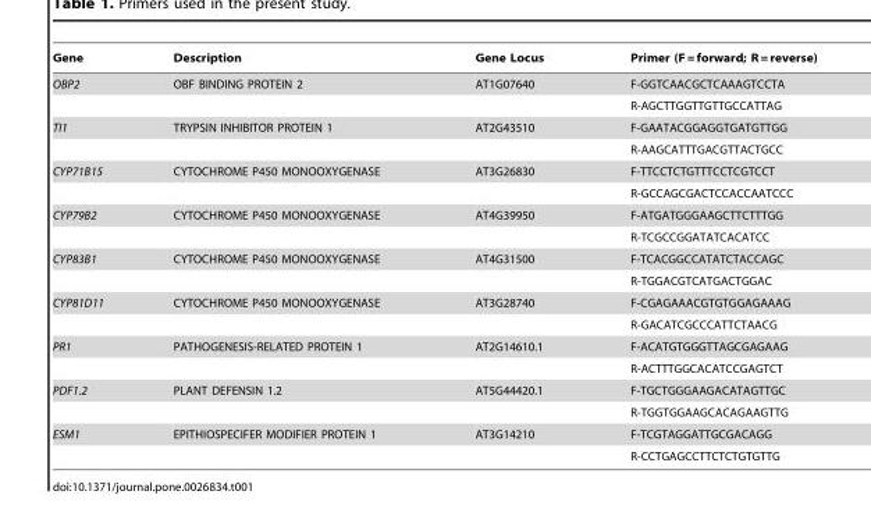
<table><thead><tr><td>Gene</td><td>Description</td><td>Gene Locus</td><td>Primer (F = forward; R = reverse)</td></tr></thead><tbody><tr><td rowspan="2">OBP2</td><td>OBF BINDING PROTEIN 2</td><td>AT1G07640</td><td>F-GGTCAACGCTCAAAGTCCTA</td></tr><tr><td></td><td></td><td>R-AGCTTGGTTGTTGCCATTAG</td></tr><tr><td rowspan="2">TI1</td><td>TRYPSIN INHIBITOR PROTEIN 1</td><td>AT2G43510</td><td>F-GAATACGGAGGTGATGTTGG</td></tr><tr><td></td><td></td><td>R-AAGCATTTGACGTTACTGCC</td></tr><tr><td rowspan="2">CYP71B15</td><td>CYTOCHROME P450 MONOOXYGENASE</td><td>AT3G26830</td><td>F-TTCCTCTGTTTCCTCGTCCT</td></tr><tr><td></td><td></td><td>R-GCCAGCGACTCCACCAATCCC</td></tr><tr><td rowspan="2">CYP79B2</td><td>CYTOCHROME P450 MONOOXYGENASE</td><td>AT4G39950</td><td>F-ATGATGGGAAGCTTCTTTGG</td></tr><tr><td></td><td></td><td>R-TCGCCGGATATCACATCC</td></tr><tr><td rowspan="2">CYP83B1</td><td>CYTOCHROME P450 MONOOXYGENASE</td><td>AT4G31500</td><td>F-TCACGGCCATATCTACCAGC</td></tr><tr><td></td><td></td><td>R-TGGACGTCATGACTGGAC</td></tr><tr><td rowspan="2">CYP81D11</td><td>CYTOCHROME P450 MONOOXYGENASE</td><td>AT3G28740</td><td>F-CGAGAAACGTGTGGAGAAAG</td></tr><tr><td></td><td></td><td>R-GACATCGCCCATTCTAACG</td></tr><tr><td rowspan="2">PR1</td><td>PATHOGENESIS-RELATED PROTEIN 1</td><td>AT2G14610.1</td><td>F-ACATGTGGGTTAGCGAGAAG</td></tr><tr><td></td><td></td><td>R-ACTTTGGCACATCCGAGTCT</td></tr><tr><td rowspan="2">PDF1.2</td><td>PLANT DEFENSIN 1.2</td><td>AT5G44420.1</td><td>F-TGCTGGGAAGACATAGTTGC</td></tr><tr><td></td><td></td><td>R-TGGTGGAAGCACAGAAGTTG</td></tr><tr><td rowspan="2">ESM1</td><td>EPITHIOSPECIFER MODIFIER PROTEIN 1</td><td>AT3G14210</td><td>F-TCGTAGGATTGCGACAGG</td></tr><tr><td></td><td></td><td>R-CCTGAGCCTTCTCTGTGTTG</td></tr></tbody></table>